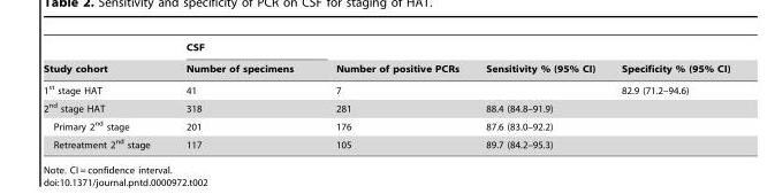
<table><thead><tr><td rowspan="2">Study cohort</td><td rowspan="2">CSF Number of specimens</td><td rowspan="2">Number of positive PCRs</td><td rowspan="2">Sensitivity % (95% CI)</td><td rowspan="2">Specificity % (95% CI)</td></tr><tr></tr></thead><tbody><tr><td>1<sup>st</sup> stage HAT</td><td>41</td><td>7</td><td></td><td>82.9 (71.2–94.6)</td></tr><tr><td>2<sup>nd</sup> stage HAT</td><td>318</td><td>281</td><td>88.4 (84.8–91.9)</td><td></td></tr><tr><td>Primary 2<sup>nd</sup> stage</td><td>201</td><td>176</td><td>87.6 (83.0–92.2)</td><td></td></tr><tr><td>Retreatment 2<sup>nd</sup> stage</td><td>117</td><td>105</td><td>89.7 (84.2–95.3)</td><td></td></tr></tbody></table>